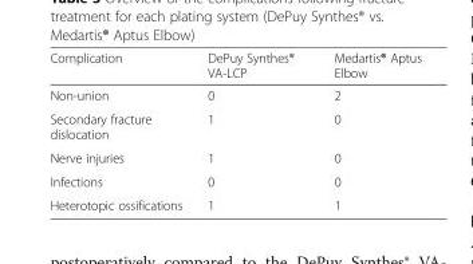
<table><thead><tr><td>Complication</td><td>DePuy Synthes® VA-LCP</td><td>Medartis® Aptus Elbow</td></tr></thead><tbody><tr><td>Non-union</td><td>0</td><td>2</td></tr><tr><td>Secondary fracture dislocation</td><td>1</td><td>0</td></tr><tr><td>Nerve injuries</td><td>1</td><td>0</td></tr><tr><td>Infections</td><td>0</td><td>0</td></tr><tr><td>Heterotopic ossifications</td><td>1</td><td>1</td></tr></tbody></table>